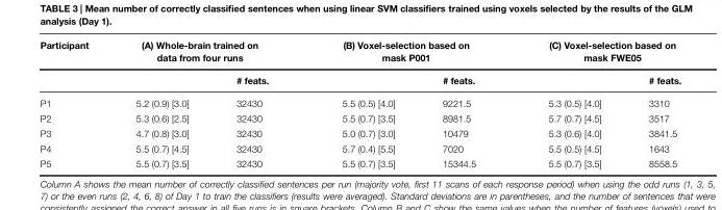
<table><thead><tr><td rowspan="2">Participant</td><td colspan="2">(A) Whole-brain trained on data from four runs</td><td colspan="2">(B) Voxel-selection based on mask P001</td><td colspan="2">(C) Voxel-selection based on mask FWE05</td></tr><tr><td></td><td># feats.</td><td></td><td># feats.</td><td></td><td># feats.</td></tr></thead><tbody><tr><td>P1</td><td>5.2 (0.9) [3.0]</td><td>32430</td><td>5.5 (0.5) [4.0]</td><td>9221.5</td><td>5.3 (0.5) [4.0]</td><td>3310</td></tr><tr><td>P2</td><td>5.3 (0.6) [2.5]</td><td>32430</td><td>5.5 (0.7) [3.5]</td><td>8981.5</td><td>5.7 (0.7) [4.5]</td><td>3517</td></tr><tr><td>P3</td><td>4.7 (0.8) [3.0]</td><td>32430</td><td>5.0 (0.7) [3.0]</td><td>10479</td><td>5.3 (0.6) [4.0]</td><td>3841.5</td></tr><tr><td>P4</td><td>5.5 (0.7) [4.5]</td><td>32430</td><td>5.7 (0.4) [5.5]</td><td>7020</td><td>5.5 (0.5) [4.5]</td><td>1643</td></tr><tr><td>P5</td><td>5.5 (0.7) [3.5]</td><td>32430</td><td>5.5 (0.7) [3.5]</td><td>15344.5</td><td>5.5 (0.7) [3.5]</td><td>8558.5</td></tr></tbody></table>